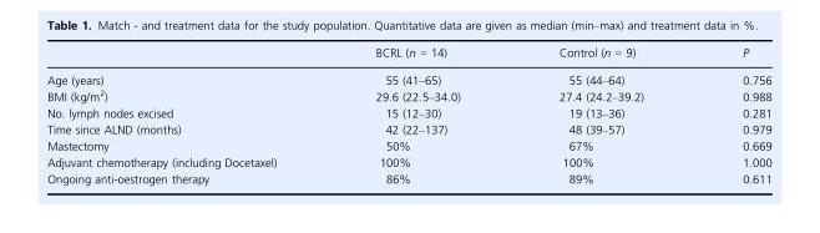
<table><thead><tr><td></td><td>BCRL (n = 14)</td><td>Control (n = 9)</td><td>P</td></tr></thead><tbody><tr><td>Age (years)</td><td>55 (41–65)</td><td>55 (44–64)</td><td>0.756</td></tr><tr><td>BMI (kg/m<sup>2</sup>)</td><td>29.6 (22.5–34.0)</td><td>27.4 (24.2–39.2)</td><td>0.988</td></tr><tr><td>No. lymph nodes excised</td><td>15 (12–30)</td><td>19 (13–36)</td><td>0.281</td></tr><tr><td>Time since ALND (months)</td><td>42 (22–137)</td><td>48 (39–57)</td><td>0.979</td></tr><tr><td>Mastectomy</td><td>50%</td><td>67%</td><td>0.669</td></tr><tr><td>Adjuvant chemotherapy (including Docetaxel)</td><td>100%</td><td>100%</td><td>1.000</td></tr><tr><td>Ongoing anti-oestrogen therapy</td><td>86%</td><td>89%</td><td>0.611</td></tr></tbody></table>